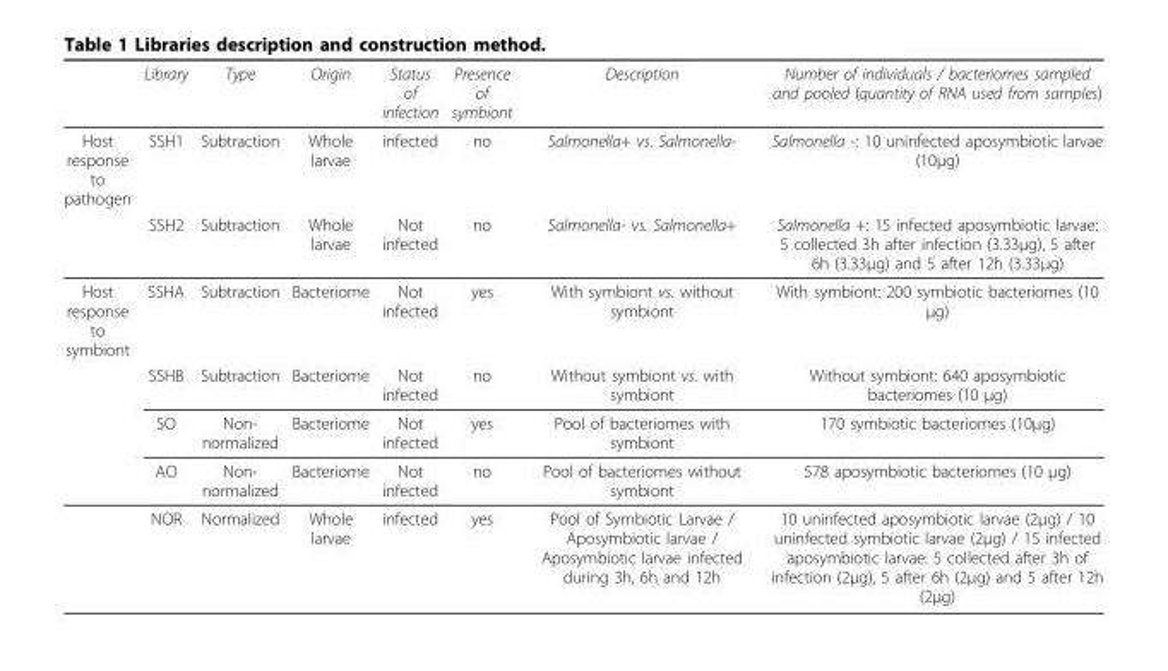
<table><thead><tr><td></td><td>Library</td><td>Type</td><td>Origin</td><td>Status of infection</td><td>Presence of symbiont</td><td>Description</td><td>Number of individuals / bacteriomes sampled and pooled (quantity of RNA used from samples)</td></tr></thead><tbody><tr><td rowspan="2">Host response to pathogen</td><td>SSH1</td><td>Subtraction</td><td>Whole larvae</td><td>infected</td><td>no</td><td>Salmonella+ vs. Salmonella-</td><td>Salmonella -: 10 uninfected aposymbiotic larvae (10µg)</td></tr><tr><td>SSH2</td><td>Subtraction</td><td>Whole larvae</td><td>Not infected</td><td>no</td><td>Salmonella- vs. Salmonella+</td><td>Salmonella +: 15 infected aposymbiotic larvae: 5 collected 3h after infection (3.33µg), 5 after 6h (3.33µg) and 5 after 12h (3.33µg)</td></tr><tr><td rowspan="5">Host response to symbiont</td><td>SSHA</td><td>Subtraction</td><td>Bacteriome</td><td>Not infected</td><td>yes</td><td>With symbiont vs. without symbiont</td><td>With symbiont: 200 symbiotic bacteriomes (10 µg)</td></tr><tr><td>SSHB</td><td>Subtraction</td><td>Bacteriome</td><td>Not infected</td><td>no</td><td>Without symbiont vs. with symbiont</td><td>Without symbiont: 640 aposymbiotic bacteriomes (10 µg)</td></tr><tr><td>SO</td><td>Non- normalized</td><td>Bacteriome</td><td>Not infected</td><td>yes</td><td>Pool of bacteriomes with symbiont</td><td>170 symbiotic bacteriomes (10µg)</td></tr><tr><td>AO</td><td>Non- normalized</td><td>Bacteriome</td><td>Not infected</td><td>no</td><td>Pool of bacteriomes without symbiont</td><td>578 aposymbiotic bacteriomes (10 µg)</td></tr><tr><td>NOR</td><td>Normalized</td><td>Whole larvae</td><td>infected</td><td>yes</td><td>Pool of Symbiotic Larvae / Aposymbiotic larvae / Aposymbiotic larvae infected during 3h, 6h and 12h</td><td>10 uninfected aposymbiotic larvae (2µg) / 10 uninfected symbiotic larvae (2µg) / 15 infected aposymbiotic larvae: 5 collected after 3h of infection (2µg), 5 after 6h (2µg) and 5 after 12h (2µg)</td></tr></tbody></table>